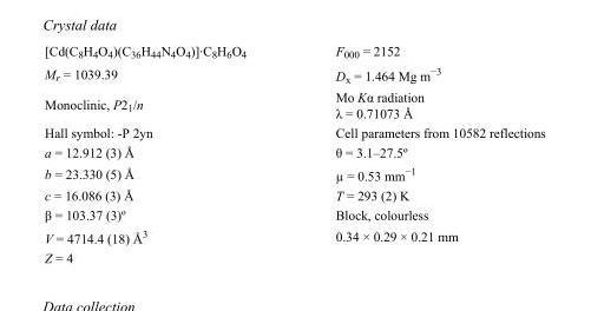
<table><tbody><tr><td>[Cd(C<sub>8</sub>H<sub>4</sub>O<sub>4</sub>)(C<sub>36</sub>H<sub>44</sub>N<sub>4</sub>O<sub>4</sub>)]·C<sub>8</sub>H<sub>6</sub>O<sub>4</sub></td><td>F000 = 2152</td></tr><tr><td>M<sub>r</sub> = 1039.39</td><td>D<sub>x</sub> = 1.464 Mg m<sup>−3</sup></td></tr><tr><td>Monoclinic, P2<sub>1</sub>/n</td><td>Mo Kα radiation λ = 0.71073 Å</td></tr><tr><td>Hall symbol: -P 2yn</td><td>Cell parameters from 10582 reflections</td></tr><tr><td>a = 12.912 (3) Å</td><td>θ = 3.1–27.5º</td></tr><tr><td>b = 23.330 (5) Å</td><td>µ = 0.53 mm<sup>−1</sup></td></tr><tr><td>c = 16.086 (3) Å</td><td>T = 293 (2) K</td></tr><tr><td>β = 103.37 (3)º</td><td>Block, colourless</td></tr><tr><td>V = 4714.4 (18) Å<sup>3</sup></td><td>0.34 × 0.29 × 0.21 mm</td></tr><tr><td>Z = 4</td><td></td></tr></tbody></table>